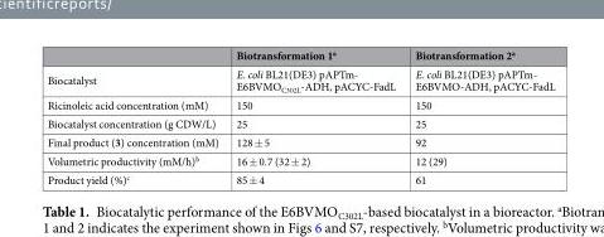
<table><thead><tr><td></td><td>Biotransformation 1<sup>a</sup></td><td>Biotransformation 2<sup>a</sup></td></tr></thead><tbody><tr><td>Biocatalyst</td><td>E. coli BL21(DE3) pAPTm- E6BVMO<sub>C302L</sub>-ADH, pACYC-FadL</td><td>E. coli BL21(DE3) pAPTm- E6BVMO-ADH, pACYC-FadL</td></tr><tr><td>Ricinoleic acid concentration (mM)</td><td>150</td><td>150</td></tr><tr><td>Biocatalyst concentration (g CDW/L)</td><td>25</td><td>25</td></tr><tr><td>Final product (3) concentration (mM)</td><td>128 ± 5</td><td>92</td></tr><tr><td>Volumetric productivity (mM/h)<sup>b</sup></td><td>16 ± 0.7 (32 ± 2)</td><td>12 (29)</td></tr><tr><td>Product yield (%)<sup>c</sup></td><td>85 ± 4</td><td>61</td></tr></tbody></table>